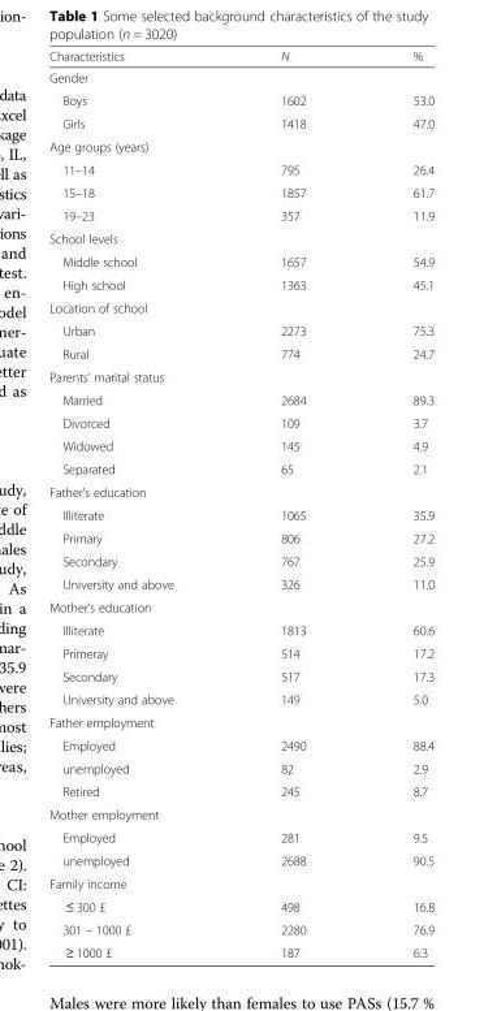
<table><thead><tr><td>Characteristics</td><td>N</td><td>%</td></tr></thead><tbody><tr><td colspan="3">Gender</td></tr><tr><td>Boys</td><td>1602</td><td>53.0</td></tr><tr><td>Girls</td><td>1418</td><td>47.0</td></tr><tr><td colspan="3">Age groups (years)</td></tr><tr><td>11–14</td><td>795</td><td>26.4</td></tr><tr><td>15–18</td><td>1857</td><td>61.7</td></tr><tr><td>19–23</td><td>357</td><td>11.9</td></tr><tr><td colspan="3">School levels</td></tr><tr><td>Middle school</td><td>1657</td><td>54.9</td></tr><tr><td>High school</td><td>1363</td><td>45.1</td></tr><tr><td colspan="3">Location of school</td></tr><tr><td>Urban</td><td>2273</td><td>75.3</td></tr><tr><td>Rural</td><td>774</td><td>24.7</td></tr><tr><td colspan="3">Parents’ marital status</td></tr><tr><td>Married</td><td>2684</td><td>89.3</td></tr><tr><td>Divorced</td><td>109</td><td>3.7</td></tr><tr><td>Widowed</td><td>145</td><td>4.9</td></tr><tr><td>Separated</td><td>65</td><td>2.1</td></tr><tr><td colspan="3">Father’s education</td></tr><tr><td>Illiterate</td><td>1065</td><td>35.9</td></tr><tr><td>Primary</td><td>806</td><td>27.2</td></tr><tr><td>Secondary</td><td>767</td><td>25.9</td></tr><tr><td>University and above</td><td>326</td><td>11.0</td></tr><tr><td colspan="3">Mother’s education</td></tr><tr><td>Illiterate</td><td>1813</td><td>60.6</td></tr><tr><td>Primeray</td><td>514</td><td>17.2</td></tr><tr><td>Secondary</td><td>517</td><td>17.3</td></tr><tr><td>University and above</td><td>149</td><td>5.0</td></tr><tr><td colspan="3">Father employment</td></tr><tr><td>Employed</td><td>2490</td><td>88.4</td></tr><tr><td>unemployed</td><td>82</td><td>2.9</td></tr><tr><td>Retired</td><td>245</td><td>8.7</td></tr><tr><td colspan="3">Mother employment</td></tr><tr><td>Employed</td><td>281</td><td>9.5</td></tr><tr><td>unemployed</td><td>2688</td><td>90.5</td></tr><tr><td colspan="3">Family income</td></tr><tr><td>≤ 300 £</td><td>498</td><td>16.8</td></tr><tr><td>301 – 1000 £</td><td>2280</td><td>76.9</td></tr><tr><td>≥ 1000 £</td><td>187</td><td>6.3</td></tr></tbody></table>